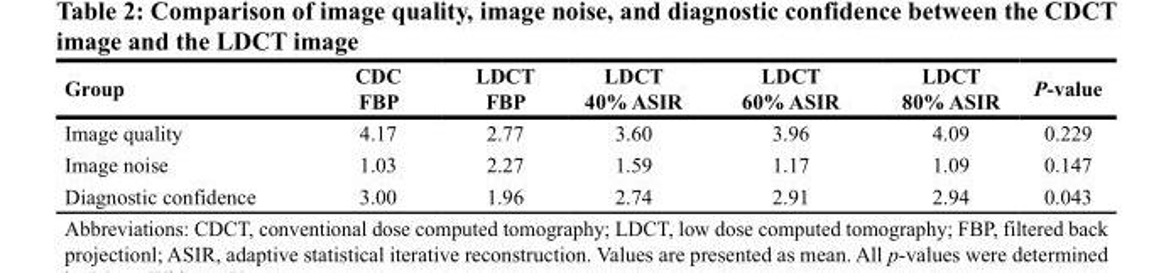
<table><thead><tr><td>Group</td><td>CDC FBP</td><td>LDCT FBP</td><td>LDCT 40% ASIR</td><td>LDCT 60% ASIR</td><td>LDCT 80% ASIR</td><td>P-value</td></tr></thead><tbody><tr><td>Image quality</td><td>4.17</td><td>2.77</td><td>3.60</td><td>3.96</td><td>4.09</td><td>0.229</td></tr><tr><td>Image noise</td><td>1.03</td><td>2.27</td><td>1.59</td><td>1.17</td><td>1.09</td><td>0.147</td></tr><tr><td>Diagnostic confidence</td><td>3.00</td><td>1.96</td><td>2.74</td><td>2.91</td><td>2.94</td><td>0.043</td></tr></tbody></table>